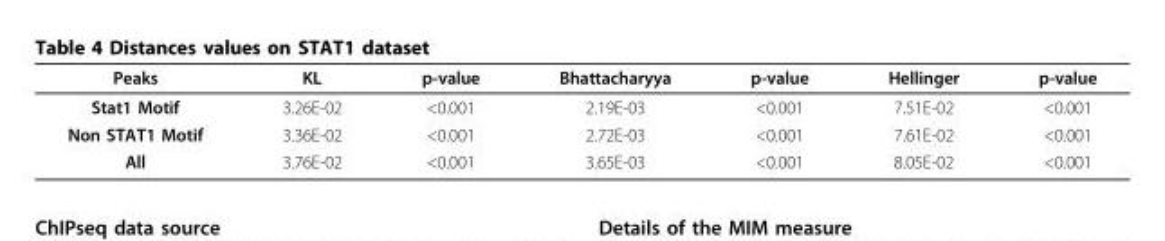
<table><thead><tr><td>Peaks</td><td>KL</td><td>p-value</td><td>Bhattacharyya</td><td>p-value</td><td>Hellinger</td><td>p-value</td></tr></thead><tbody><tr><td>Stat1 Motif</td><td>3.26E-02</td><td>&lt;0.001</td><td>2.19E-03</td><td>&lt;0.001</td><td>7.51E-02</td><td>&lt;0.001</td></tr><tr><td>Non STAT1 Motif</td><td>3.36E-02</td><td>&lt;0.001</td><td>2.72E-03</td><td>&lt;0.001</td><td>7.61E-02</td><td>&lt;0.001</td></tr><tr><td>All</td><td>3.76E-02</td><td>&lt;0.001</td><td>3.65E-03</td><td>&lt;0.001</td><td>8.05E-02</td><td>&lt;0.001</td></tr></tbody></table>